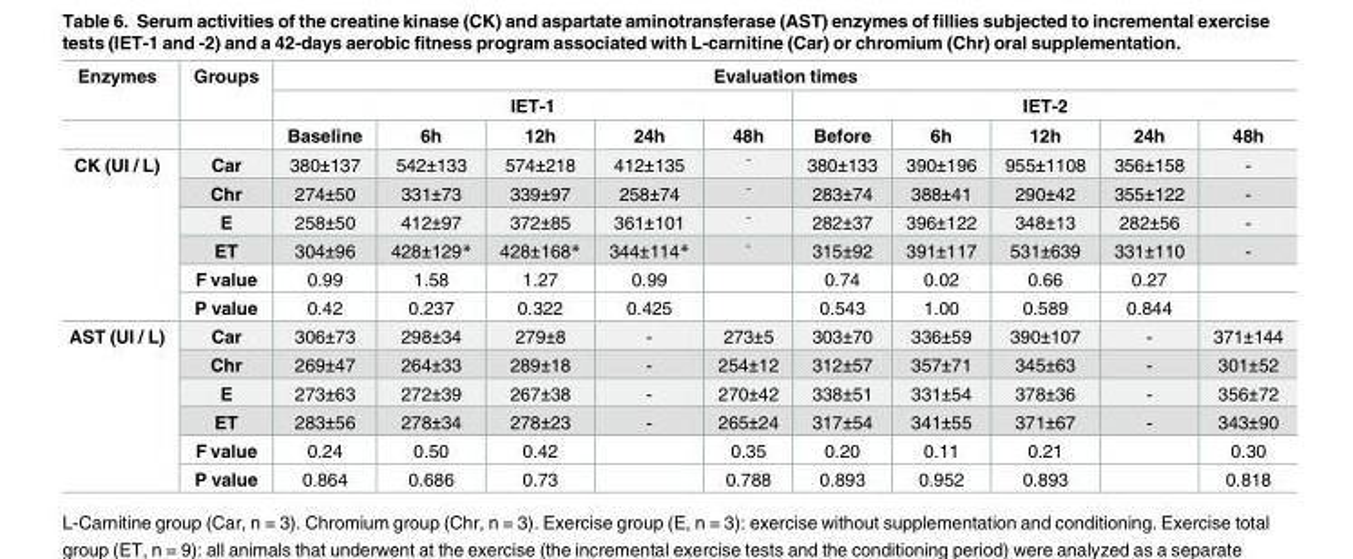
<table><thead><tr><td rowspan="3">Enzymes</td><td rowspan="3">Groups</td><td colspan="10">Evaluation times</td></tr><tr><td colspan="5">IET-1</td><td colspan="5">IET-2</td></tr><tr><td>Baseline</td><td>6h</td><td>12h</td><td>24h</td><td>48h</td><td>Before</td><td>6h</td><td>12h</td><td>24h</td><td>48h</td></tr></thead><tbody><tr><td rowspan="6">CK (UI / L)</td><td>Car</td><td>380±137</td><td>542±133</td><td>574±218</td><td>412±135</td><td><sup>-</sup></td><td>380±133</td><td>390±196</td><td>955±1108</td><td>356±158</td><td>-</td></tr><tr><td>Chr</td><td>274±50</td><td>331±73</td><td>339±97</td><td>258±74</td><td><sup>-</sup></td><td>283±74</td><td>388±41</td><td>290±42</td><td>355±122</td><td>-</td></tr><tr><td>E</td><td>258±50</td><td>412±97</td><td>372±85</td><td>361±101</td><td><sup>-</sup></td><td>282±37</td><td>396±122</td><td>348±13</td><td>282±56</td><td>-</td></tr><tr><td>ET</td><td>304±96</td><td>428±129*</td><td>428±168*</td><td>344±114*</td><td><sup>-</sup></td><td>315±92</td><td>391±117</td><td>531±639</td><td>331±110</td><td>-</td></tr><tr><td>F value</td><td>0.99</td><td>1.58</td><td>1.27</td><td>0.99</td><td></td><td>0.74</td><td>0.02</td><td>0.66</td><td>0.27</td><td></td></tr><tr><td>P value</td><td>0.42</td><td>0.237</td><td>0.322</td><td>0.425</td><td></td><td>0.543</td><td>1.00</td><td>0.589</td><td>0.844</td><td></td></tr><tr><td rowspan="6">AST (UI / L)</td><td>Car</td><td>306±73</td><td>298±34</td><td>279±8</td><td>-</td><td>273±5</td><td>303±70</td><td>336±59</td><td>390±107</td><td>-</td><td>371±144</td></tr><tr><td>Chr</td><td>269±47</td><td>264±33</td><td>289±18</td><td>-</td><td>254±12</td><td>312±57</td><td>357±71</td><td>345±63</td><td>-</td><td>301±52</td></tr><tr><td>E</td><td>273±63</td><td>272±39</td><td>267±38</td><td>-</td><td>270±42</td><td>338±51</td><td>331±54</td><td>378±36</td><td>-</td><td>356±72</td></tr><tr><td>ET</td><td>283±56</td><td>278±34</td><td>278±23</td><td>-</td><td>265±24</td><td>317±54</td><td>341±55</td><td>371±67</td><td>-</td><td>343±90</td></tr><tr><td>F value</td><td>0.24</td><td>0.50</td><td>0.42</td><td></td><td>0.35</td><td>0.20</td><td>0.11</td><td>0.21</td><td></td><td>0.30</td></tr><tr><td>P value</td><td>0.864</td><td>0.686</td><td>0.73</td><td></td><td>0.788</td><td>0.893</td><td>0.952</td><td>0.893</td><td></td><td>0.818</td></tr></tbody></table>